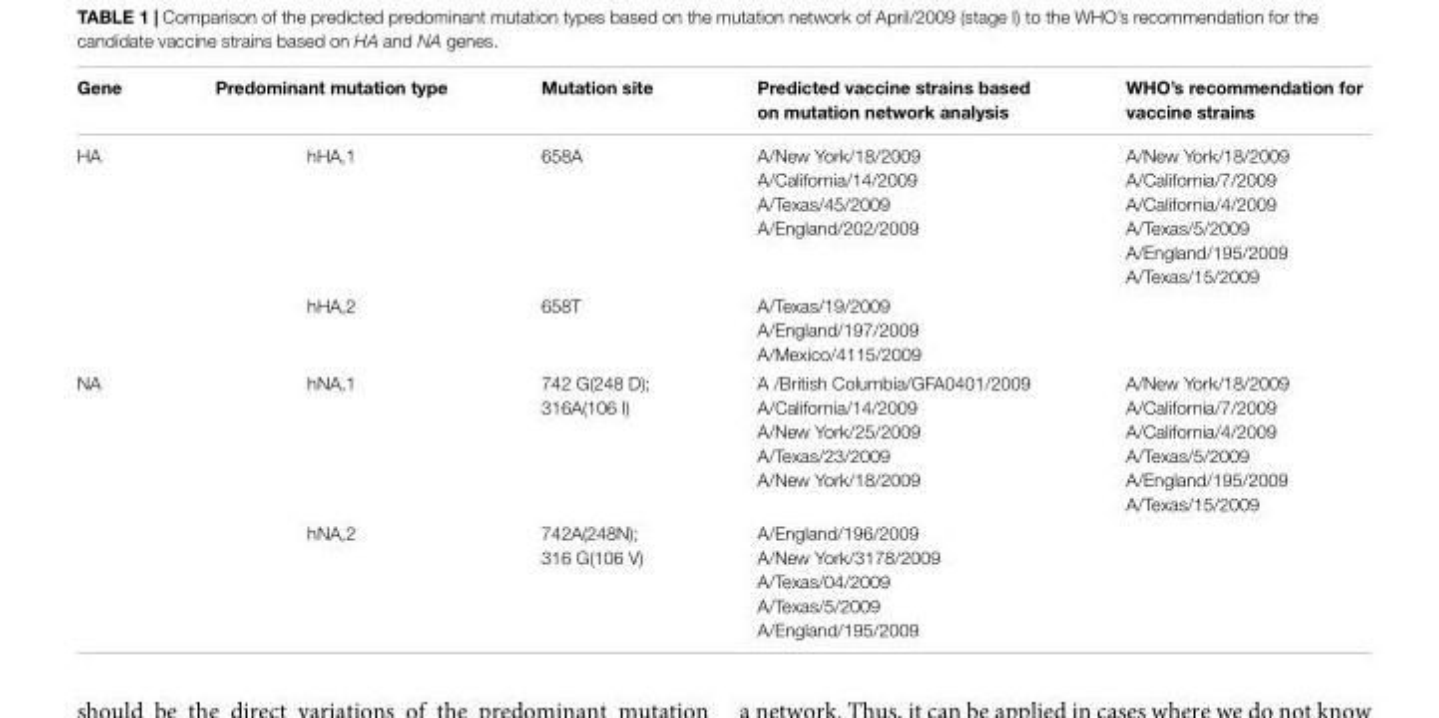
<table><thead><tr><td>Gene</td><td>Predominant mutation type</td><td>Mutation site</td><td>Predicted vaccine strains based on mutation network analysis</td><td>WHO’s recommendation for vaccine strains</td></tr></thead><tbody><tr><td rowspan="2">HA</td><td>hHA,1</td><td>658A</td><td>A/New York/18/2009 A/California/14/2009 A/Texas/45/2009 A/England/202/2009</td><td>A/New York/18/2009 A/California/7/2009 A/California/4/2009 A/Texas/5/2009 A/England/195/2009 A/Texas/15/2009</td></tr><tr><td>hHA,2</td><td>658T</td><td>A/Texas/19/2009 A/England/197/2009 A/Mexico/4115/2009</td><td></td></tr><tr><td rowspan="2">NA</td><td>hNA,1</td><td>742 G(248 D); 316A(106 I)</td><td>A /British Columbia/GFA0401/2009 A/California/14/2009 A/New York/25/2009 A/Texas/23/2009 A/New York/18/2009</td><td>A/New York/18/2009 A/California/7/2009 A/California/4/2009 A/Texas/5/2009 A/England/195/2009 A/Texas/15/2009</td></tr><tr><td>hNA,2</td><td>742A(248N); 316 G(106 V)</td><td>A/England/196/2009 A/New York/3178/2009 A/Texas/04/2009 A/Texas/5/2009 A/England/195/2009</td><td></td></tr></tbody></table>